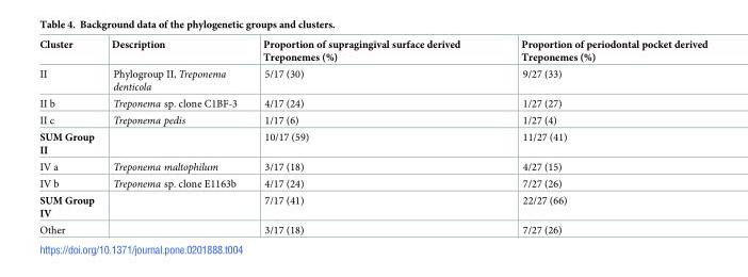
<table><thead><tr><td>Cluster</td><td>Description</td><td>Proportion of supragingival surface derived Treponemes (%)</td><td>Proportion of periodontal pocket derived Treponemes (%)</td></tr></thead><tbody><tr><td>II</td><td>Phylogroup II, Treponema denticola</td><td>5/17 (30)</td><td>9/27 (33)</td></tr><tr><td>II b</td><td>Treponema sp. clone C1BF-3</td><td>4/17 (24)</td><td>1/27 (27)</td></tr><tr><td>II c</td><td>Treponema pedis</td><td>1/17 (6)</td><td>1/27 (4)</td></tr><tr><td>SUM Group II</td><td></td><td>10/17 (59)</td><td>11/27 (41)</td></tr><tr><td>IV a</td><td>Treponema maltophilum</td><td>3/17 (18)</td><td>4/27 (15)</td></tr><tr><td>IV b</td><td>Treponema sp. clone E1163b</td><td>4/17 (24)</td><td>7/27 (26)</td></tr><tr><td>SUM Group IV</td><td></td><td>7/17 (41)</td><td>22/27 (66)</td></tr><tr><td>Other</td><td></td><td>3/17 (18)</td><td>7/27 (26)</td></tr></tbody></table>